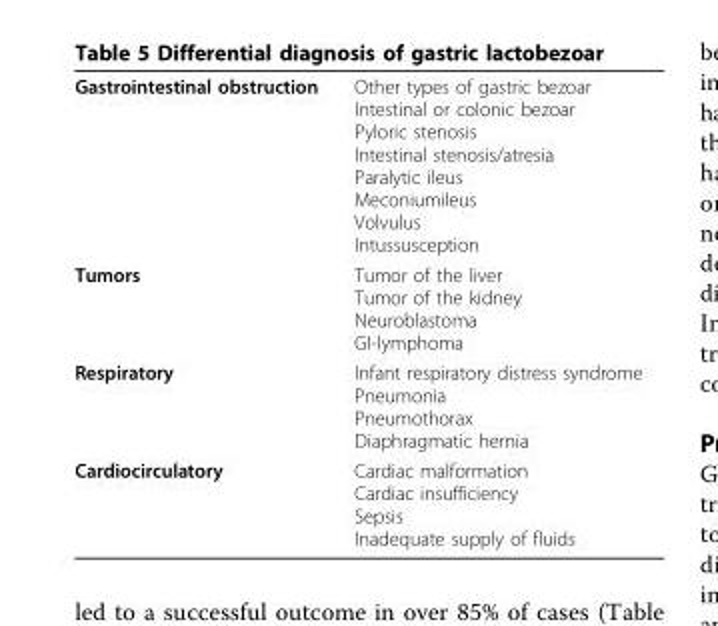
<table><tbody><tr><td>Gastrointestinal obstruction</td><td>Other types of gastric bezoar Intestinal or colonic bezoar Pyloric stenosis Intestinal stenosis/atresia Paralytic ileus Meconiumileus Volvulus Intussusception</td></tr><tr><td>Tumors</td><td>Tumor of the liver Tumor of the kidney Neuroblastoma GI-lymphoma</td></tr><tr><td>Respiratory</td><td>Infant respiratory distress syndrome Pneumonia Pneumothorax Diaphragmatic hernia</td></tr><tr><td>Cardiocirculatory</td><td>Cardiac malformation Cardiac insufficiency Sepsis Inadequate supply of fluids</td></tr></tbody></table>